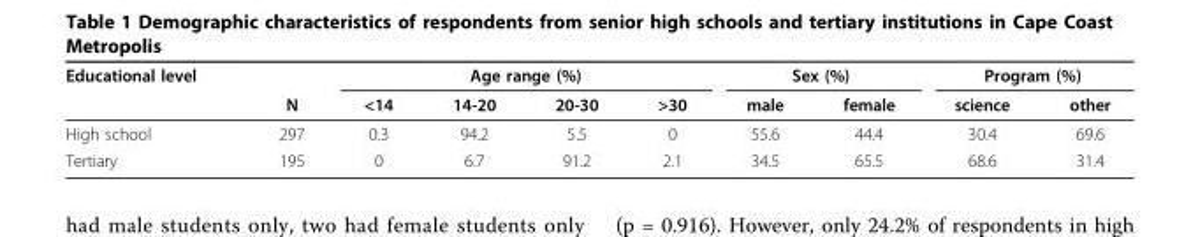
<table><thead><tr><td rowspan="2">Educational level</td><td rowspan="2">N</td><td colspan="4">Age range (%)</td><td colspan="2">Sex (%)</td><td colspan="2">Program (%)</td></tr><tr><td>&lt;14</td><td>14-20</td><td>20-30</td><td>&gt;30</td><td>male</td><td>female</td><td>science</td><td>other</td></tr></thead><tbody><tr><td>High school</td><td>297</td><td>0.3</td><td>94.2</td><td>5.5</td><td>0</td><td>55.6</td><td>44.4</td><td>30.4</td><td>69.6</td></tr><tr><td>Tertiary</td><td>195</td><td>0</td><td>6.7</td><td>91.2</td><td>2.1</td><td>34.5</td><td>65.5</td><td>68.6</td><td>31.4</td></tr></tbody></table>